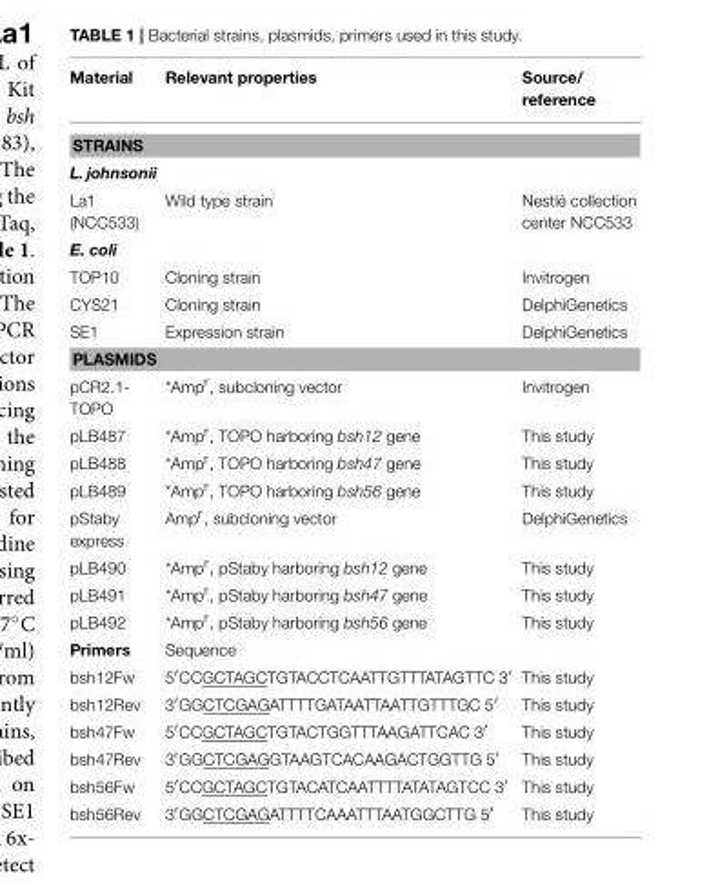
<table><thead><tr><td>Material</td><td>Relevant properties</td><td>Source/ reference</td></tr></thead><tbody><tr><td colspan="3">STRAINS</td></tr><tr><td colspan="3">L. johnsonii</td></tr><tr><td>La1 (NCC533)</td><td>Wild type strain</td><td>Nestlé collection center NCC533</td></tr><tr><td colspan="3">E. coli</td></tr><tr><td>TOP10</td><td>Cloning strain</td><td>Invitrogen</td></tr><tr><td>CYS21</td><td>Cloning strain</td><td>DelphiGenetics</td></tr><tr><td>SE1</td><td>Expression strain</td><td>DelphiGenetics</td></tr><tr><td colspan="3">PLASMIDS</td></tr><tr><td>pCR2.1- TOPO</td><td>*Amp<sup>r</sup>, subcloning vector</td><td>Invitrogen</td></tr><tr><td>pLB487</td><td>*Amp<sup>r</sup>, TOPO harboring bsh12 gene</td><td>This study</td></tr><tr><td>pLB488</td><td>*Amp<sup>r</sup>, TOPO harboring bsh47 gene</td><td>This study</td></tr><tr><td>pLB489</td><td>*Amp<sup>r</sup>, TOPO harboring bsh56 gene</td><td>This study</td></tr><tr><td>pStaby express</td><td>Amp<sup>r</sup>, subcloning vector</td><td>DelphiGenetics</td></tr><tr><td>pLB490</td><td>*Amp<sup>r</sup>, pStaby harboring bsh12 gene</td><td>This study</td></tr><tr><td>pLB491</td><td>*Amp<sup>r</sup>, pStaby harboring bsh47 gene</td><td>This study</td></tr><tr><td>pLB492</td><td>*Amp<sup>r</sup>, pStaby harboring bsh56 gene</td><td>This study</td></tr><tr><td>Primers</td><td>Sequence</td><td></td></tr><tr><td>bsh12Fw</td><td>5′CCGCTAGCTGTACCTCAATTGTTTATAGTTC 3′</td><td>This study</td></tr><tr><td>bsh12Rev</td><td>3′GGCTCGAGATTTTGATAATTAATTGTTTGC 5′</td><td>This study</td></tr><tr><td>bsh47Fw</td><td>5′CCGCTAGCTGTACTGGTTTAAGATTCAC 3′</td><td>This study</td></tr><tr><td>bsh47Rev</td><td>3′GGCTCGAGGTAAGTCACAAGACTGGTTG 5′</td><td>This study</td></tr><tr><td>bsh56Fw</td><td>5′CCGCTAGCTGTACATCAATTTTATATAGTCC 3′</td><td>This study</td></tr><tr><td>bsh56Rev</td><td>3′GGCTCGAGATTTTCAAATTTAATGGCTTG 5′</td><td>This study</td></tr></tbody></table>